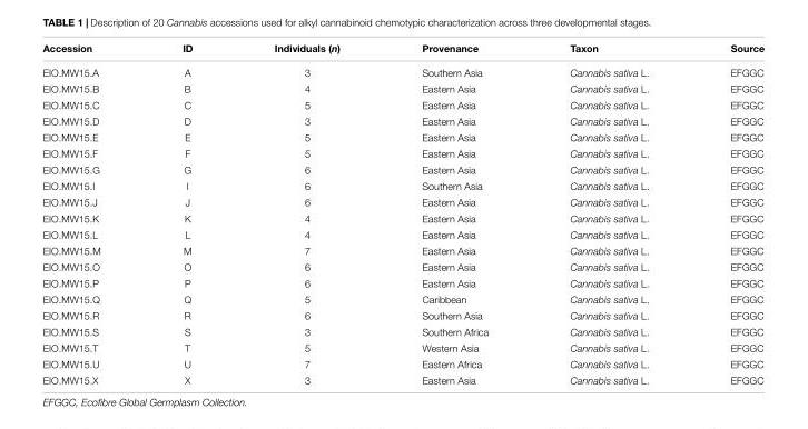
<table><thead><tr><td>Accession</td><td>ID</td><td>Individuals (n)</td><td>Provenance</td><td>Taxon</td><td>Source</td></tr></thead><tbody><tr><td>EIO.MW15.A</td><td>A</td><td>3</td><td>Southern Asia</td><td>Cannabis sativa L.</td><td>EFGGC</td></tr><tr><td>EIO.MW15.B</td><td>B</td><td>4</td><td>Eastern Asia</td><td>Cannabis sativa L.</td><td>EFGGC</td></tr><tr><td>EIO.MW15.C</td><td>C</td><td>5</td><td>Eastern Asia</td><td>Cannabis sativa L.</td><td>EFGGC</td></tr><tr><td>EIO.MW15.D</td><td>D</td><td>3</td><td>Eastern Asia</td><td>Cannabis sativa L.</td><td>EFGGC</td></tr><tr><td>EIO.MW15.E</td><td>E</td><td>5</td><td>Eastern Asia</td><td>Cannabis sativa L.</td><td>EFGGC</td></tr><tr><td>EIO.MW15.F</td><td>F</td><td>5</td><td>Eastern Asia</td><td>Cannabis sativa L.</td><td>EFGGC</td></tr><tr><td>EIO.MW15.G</td><td>G</td><td>6</td><td>Eastern Asia</td><td>Cannabis sativa L.</td><td>EFGGC</td></tr><tr><td>EIO.MW15.I</td><td>I</td><td>6</td><td>Southern Asia</td><td>Cannabis sativa L.</td><td>EFGGC</td></tr><tr><td>EIO.MW15.J</td><td>J</td><td>6</td><td>Eastern Asia</td><td>Cannabis sativa L.</td><td>EFGGC</td></tr><tr><td>EIO.MW15.K</td><td>K</td><td>4</td><td>Eastern Asia</td><td>Cannabis sativa L.</td><td>EFGGC</td></tr><tr><td>EIO.MW15.L</td><td>L</td><td>4</td><td>Eastern Asia</td><td>Cannabis sativa L.</td><td>EFGGC</td></tr><tr><td>EIO.MW15.M</td><td>M</td><td>7</td><td>Eastern Asia</td><td>Cannabis sativa L.</td><td>EFGGC</td></tr><tr><td>EIO.MW15.O</td><td>O</td><td>6</td><td>Eastern Asia</td><td>Cannabis sativa L.</td><td>EFGGC</td></tr><tr><td>EIO.MW15.P</td><td>P</td><td>6</td><td>Eastern Asia</td><td>Cannabis sativa L.</td><td>EFGGC</td></tr><tr><td>EIO.MW15.Q</td><td>Q</td><td>5</td><td>Caribbean</td><td>Cannabis sativa L.</td><td>EFGGC</td></tr><tr><td>EIO.MW15.R</td><td>R</td><td>6</td><td>Southern Asia</td><td>Cannabis sativa L.</td><td>EFGGC</td></tr><tr><td>EIO.MW15.S</td><td>S</td><td>3</td><td>Southern Africa</td><td>Cannabis sativa L.</td><td>EFGGC</td></tr><tr><td>EIO.MW15.T</td><td>T</td><td>5</td><td>Western Asia</td><td>Cannabis sativa L.</td><td>EFGGC</td></tr><tr><td>EIO.MW15.U</td><td>U</td><td>7</td><td>Eastern Africa</td><td>Cannabis sativa L.</td><td>EFGGC</td></tr><tr><td>EIO.MW15.X</td><td>X</td><td>3</td><td>Eastern Asia</td><td>Cannabis sativa L.</td><td>EFGGC</td></tr></tbody></table>